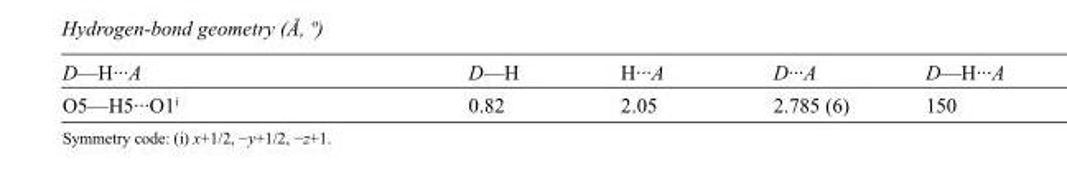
<table><tbody><tr><td>D—H···A</td><td>D—H</td><td>H···A</td><td>D···A</td><td>D—H···A</td></tr><tr><td>O5—H5···O1<sup>i</sup></td><td>0.82</td><td>2.05</td><td>2.785 (6)</td><td>150</td></tr></tbody></table>